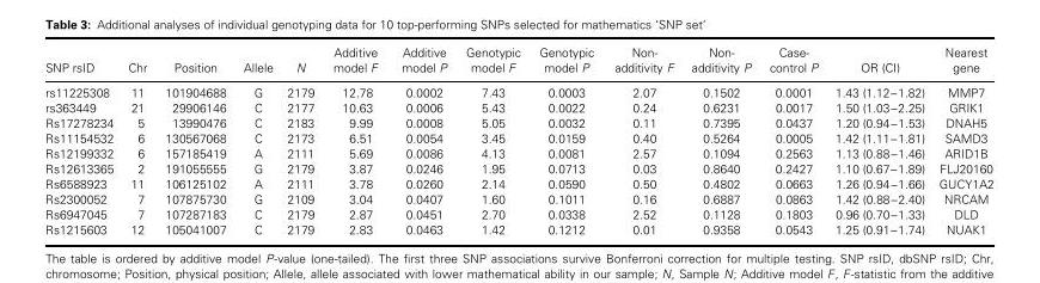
<table><thead><tr><td>SNP rsID</td><td>Chr</td><td>Position</td><td>Allele</td><td>N</td><td>Additive model F</td><td>Additive model P</td><td>Genotypic model F</td><td>Genotypic model P</td><td>Non- additivity F</td><td>Non- additivity P</td><td>Case- control P</td><td>OR (CI)</td><td>Nearest gene</td></tr></thead><tbody><tr><td>rs11225308</td><td>11</td><td>101904688</td><td>G</td><td>2179</td><td>12.78</td><td>0.0002</td><td>7.43</td><td>0.0003</td><td>2.07</td><td>0.1502</td><td>0.0001</td><td>1.43 (1.12–1.82)</td><td>MMP7</td></tr><tr><td>rs363449</td><td>21</td><td>29906146</td><td>C</td><td>2177</td><td>10.63</td><td>0.0006</td><td>5.43</td><td>0.0022</td><td>0.24</td><td>0.6231</td><td>0.0017</td><td>1.50 (1.03–2.25)</td><td>GRIK1</td></tr><tr><td>Rs17278234</td><td>5</td><td>13990476</td><td>C</td><td>2183</td><td>9.99</td><td>0.0008</td><td>5.05</td><td>0.0032</td><td>0.11</td><td>0.7395</td><td>0.0437</td><td>1.20 (0.94–1.53)</td><td>DNAH5</td></tr><tr><td>Rs11154532</td><td>6</td><td>130567068</td><td>C</td><td>2173</td><td>6.51</td><td>0.0054</td><td>3.45</td><td>0.0159</td><td>0.40</td><td>0.5264</td><td>0.0005</td><td>1.42 (1.11–1.81)</td><td>SAMD3</td></tr><tr><td>Rs12199332</td><td>6</td><td>157185419</td><td>A</td><td>2111</td><td>5.69</td><td>0.0086</td><td>4.13</td><td>0.0081</td><td>2.57</td><td>0.1094</td><td>0.2563</td><td>1.13 (0.88–1.46)</td><td>ARID1B</td></tr><tr><td>Rs12613365</td><td>2</td><td>191055555</td><td>G</td><td>2179</td><td>3.87</td><td>0.0246</td><td>1.95</td><td>0.0713</td><td>0.03</td><td>0.8640</td><td>0.2427</td><td>1.10 (0.67–1.89)</td><td>FLJ20160</td></tr><tr><td>Rs6588923</td><td>11</td><td>106125102</td><td>A</td><td>2111</td><td>3.78</td><td>0.0260</td><td>2.14</td><td>0.0590</td><td>0.50</td><td>0.4802</td><td>0.0663</td><td>1.26 (0.94–1.66)</td><td>GUCY1A2</td></tr><tr><td>Rs2300052</td><td>7</td><td>107875730</td><td>G</td><td>2109</td><td>3.04</td><td>0.0407</td><td>1.60</td><td>0.1011</td><td>0.16</td><td>0.6887</td><td>0.0863</td><td>1.42 (0.88–2.40)</td><td>NRCAM</td></tr><tr><td>Rs6947045</td><td>7</td><td>107287183</td><td>C</td><td>2179</td><td>2.87</td><td>0.0451</td><td>2.70</td><td>0.0338</td><td>2.52</td><td>0.1128</td><td>0.1803</td><td>0.96 (0.70–1.33)</td><td>DLD</td></tr><tr><td>Rs1215603</td><td>12</td><td>105041007</td><td>C</td><td>2179</td><td>2.83</td><td>0.0463</td><td>1.42</td><td>0.1212</td><td>0.01</td><td>0.9358</td><td>0.0543</td><td>1.25 (0.91–1.74)</td><td>NUAK1</td></tr></tbody></table>